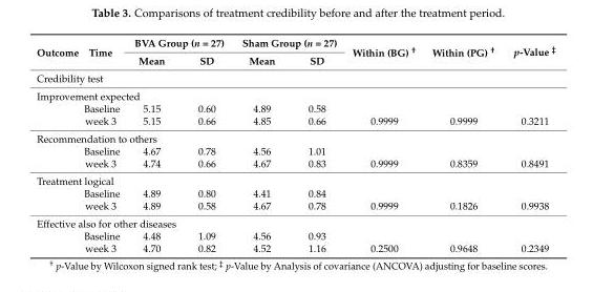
<table><thead><tr><td rowspan="2">Outcome</td><td rowspan="2">Time</td><td colspan="2">BVA Group (n = 27)</td><td colspan="2">Sham Group (n = 27)</td><td rowspan="2">Within (BG) <sup>†</sup></td><td rowspan="2">Within (PG) <sup>†</sup></td><td rowspan="2">p-Value <sup>‡</sup></td></tr><tr><td>Mean</td><td>SD</td><td>Mean</td><td>SD</td></tr></thead><tbody><tr><td colspan="9">Credibility test</td></tr><tr><td colspan="9">Improvement expected</td></tr><tr><td></td><td>Baseline</td><td>5.15</td><td>0.60</td><td>4.89</td><td>0.58</td><td></td><td></td><td></td></tr><tr><td></td><td>week 3</td><td>5.15</td><td>0.66</td><td>4.85</td><td>0.66</td><td>0.9999</td><td>0.9999</td><td>0.3211</td></tr><tr><td colspan="9">Recommendation to others</td></tr><tr><td></td><td>Baseline</td><td>4.67</td><td>0.78</td><td>4.56</td><td>1.01</td><td></td><td></td><td></td></tr><tr><td></td><td>week 3</td><td>4.74</td><td>0.66</td><td>4.67</td><td>0.83</td><td>0.9999</td><td>0.8359</td><td>0.8491</td></tr><tr><td colspan="9">Treatment logical</td></tr><tr><td></td><td>Baseline</td><td>4.89</td><td>0.80</td><td>4.41</td><td>0.84</td><td></td><td></td><td></td></tr><tr><td></td><td>week 3</td><td>4.89</td><td>0.58</td><td>4.67</td><td>0.78</td><td>0.9999</td><td>0.1826</td><td>0.9938</td></tr><tr><td colspan="9">Effective also for other diseases</td></tr><tr><td></td><td>Baseline</td><td>4.48</td><td>1.09</td><td>4.56</td><td>0.93</td><td></td><td></td><td></td></tr><tr><td></td><td>week 3</td><td>4.70</td><td>0.82</td><td>4.52</td><td>1.16</td><td>0.2500</td><td>0.9648</td><td>0.2349</td></tr></tbody></table>